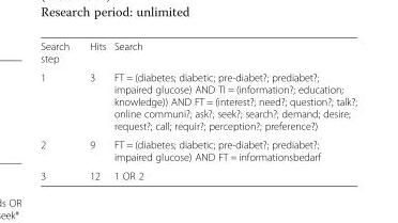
<table><tbody><tr><td>Search step</td><td>Hits</td><td>Search</td></tr><tr><td>1</td><td>3</td><td>FT = (diabetes; diabetic; pre-diabet?; prediabet?; impaired glucose) AND TI = (information?; education; knowledge)) AND FT = (interest?; need?; question?; talk?; online communi?; ask?; seek?; search?; demand; desire; request?; call; requir?; perception?; preference?)</td></tr><tr><td>2</td><td>9</td><td>FT = (diabetes; diabetic; pre-diabet?; prediabet?; impaired glucose) AND FT = informationsbedarf</td></tr><tr><td>3</td><td>12</td><td>1 OR 2</td></tr></tbody></table>